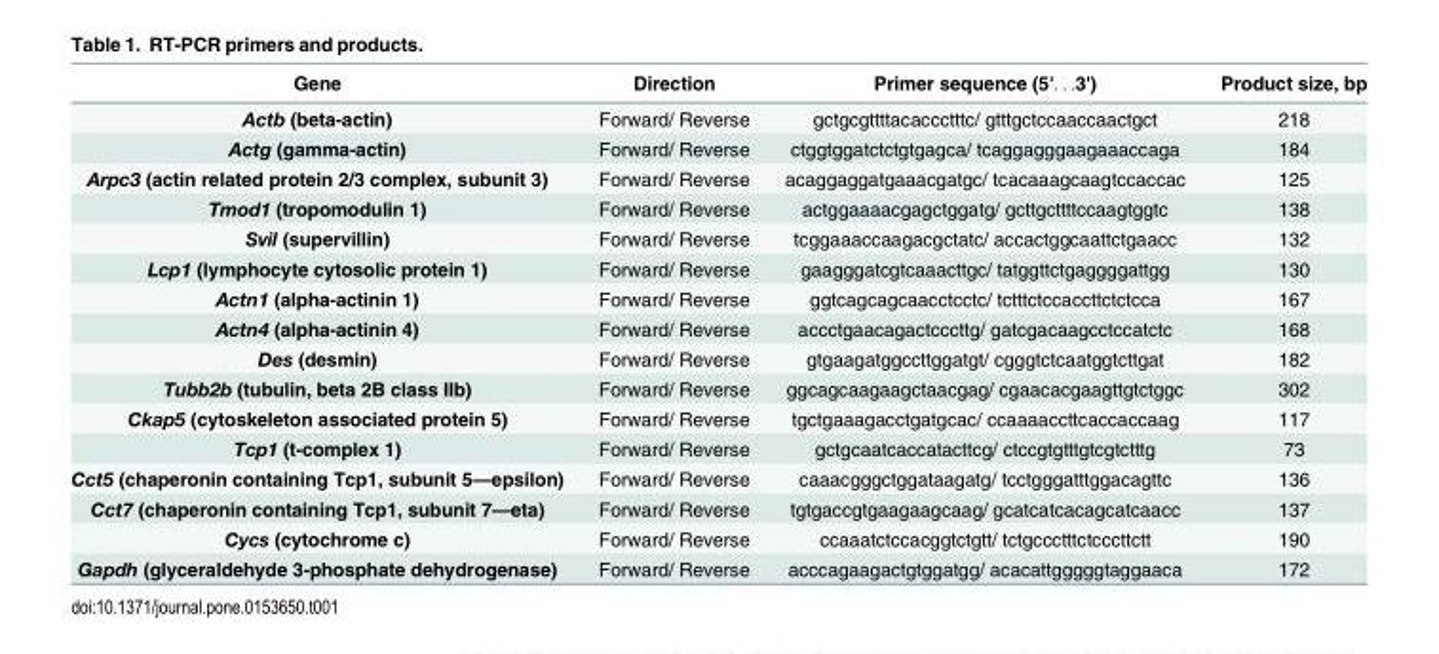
<table><thead><tr><td>Gene</td><td>Direction</td><td>Primer sequence (5&#x27;. . .3&#x27;)</td><td>Product size, bp</td></tr></thead><tbody><tr><td>Actb (beta-actin)</td><td>Forward/ Reverse</td><td>gctgcgttttacaccctttc/ gtttgctccaaccaactgct</td><td>218</td></tr><tr><td>Actg (gamma-actin)</td><td>Forward/ Reverse</td><td>ctggtggatctctgtgagca/ tcaggagggaagaaaccaga</td><td>184</td></tr><tr><td>Arpc3 (actin related protein 2/3 complex, subunit 3)</td><td>Forward/ Reverse</td><td>acaggaggatgaaacgatgc/ tcacaaagcaagtccaccac</td><td>125</td></tr><tr><td>Tmod1 (tropomodulin 1)</td><td>Forward/ Reverse</td><td>actggaaaacgagctggatg/ gcttgcttttccaagtggtc</td><td>138</td></tr><tr><td>Svil (supervillin)</td><td>Forward/ Reverse</td><td>tcggaaaccaagacgctatc/ accactggcaattctgaacc</td><td>132</td></tr><tr><td>Lcp1 (lymphocyte cytosolic protein 1)</td><td>Forward/ Reverse</td><td>gaagggatcgtcaaacttgc/ tatggttctgaggggattgg</td><td>130</td></tr><tr><td>Actn1 (alpha-actinin 1)</td><td>Forward/ Reverse</td><td>ggtcagcagcaacctcctc/ tctttctccaccttctctcca</td><td>167</td></tr><tr><td>Actn4 (alpha-actinin 4)</td><td>Forward/ Reverse</td><td>accctgaacagactcccttg/ gatcgacaagcctccatctc</td><td>168</td></tr><tr><td>Des (desmin)</td><td>Forward/ Reverse</td><td>gtgaagatggccttggatgt/ cgggtctcaatggtcttgat</td><td>182</td></tr><tr><td>Tubb2b (tubulin, beta 2B class IIb)</td><td>Forward/ Reverse</td><td>ggcagcaagaagctaacgag/ cgaacacgaagttgtctggc</td><td>302</td></tr><tr><td>Ckap5 (cytoskeleton associated protein 5)</td><td>Forward/ Reverse</td><td>tgctgaaagacctgatgcac/ ccaaaaccttcaccaccaag</td><td>117</td></tr><tr><td>Tcp1 (t-complex 1)</td><td>Forward/ Reverse</td><td>gctgcaatcaccatacttcg/ ctccgtgtttgtcgtctttg</td><td>73</td></tr><tr><td>Cct5 (chaperonin containing Tcp1, subunit 5—epsilon)</td><td>Forward/ Reverse</td><td>caaacgggctggataagatg/ tcctgggatttggacagttc</td><td>136</td></tr><tr><td>Cct7 (chaperonin containing Tcp1, subunit 7—eta)</td><td>Forward/ Reverse</td><td>tgtgaccgtgaagaagcaag/ gcatcatcacagcatcaacc</td><td>137</td></tr><tr><td>Cycs (cytochrome c)</td><td>Forward/ Reverse</td><td>ccaaatctccacggtctgtt/ tctgccctttctcccttctt</td><td>190</td></tr><tr><td>Gapdh (glyceraldehyde 3-phosphate dehydrogenase)</td><td>Forward/ Reverse</td><td>acccagaagactgtggatgg/ acacattgggggtaggaaca</td><td>172</td></tr></tbody></table>